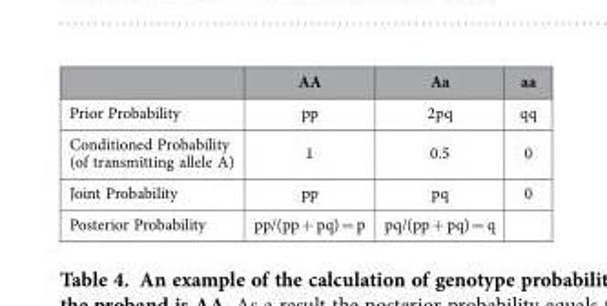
<table><thead><tr><td></td><td>AA</td><td>Aa</td><td>aa</td></tr></thead><tbody><tr><td>Prior Probability</td><td>pp</td><td>2pq</td><td>qq</td></tr><tr><td>Conditioned Probability (of transmitting allele A)</td><td>1</td><td>0.5</td><td>0</td></tr><tr><td>Joint Probability</td><td>pp</td><td>pq</td><td>0</td></tr><tr><td>Posterior Probability</td><td>pp/(pp + pq) = p</td><td>pq/(pp + pq) = q</td><td></td></tr></tbody></table>